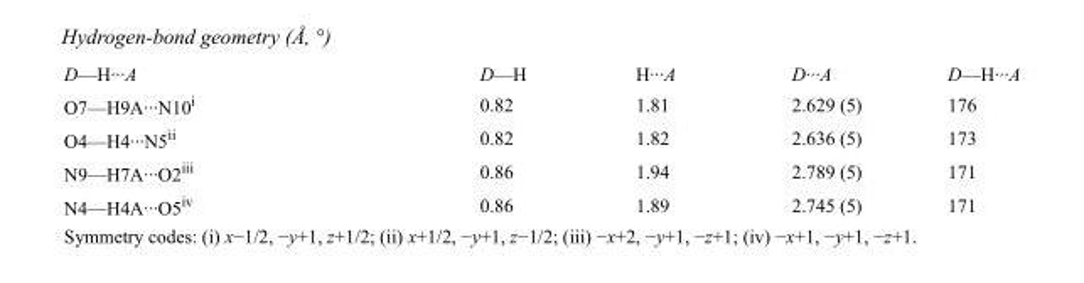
<table><tbody><tr><td>D—H···A</td><td>D—H</td><td>H···A</td><td>D···A</td><td>D—H···A</td></tr><tr><td>O7—H9A···N10<sup>i</sup></td><td>0.82</td><td>1.81</td><td>2.629 (5)</td><td>176</td></tr><tr><td>O4—H4···N5<sup>ii</sup></td><td>0.82</td><td>1.82</td><td>2.636 (5)</td><td>173</td></tr><tr><td>N9—H7A···O2<sup>iii</sup></td><td>0.86</td><td>1.94</td><td>2.789 (5)</td><td>171</td></tr><tr><td>N4—H4A···O5<sup>iv</sup></td><td>0.86</td><td>1.89</td><td>2.745 (5)</td><td>171</td></tr></tbody></table>